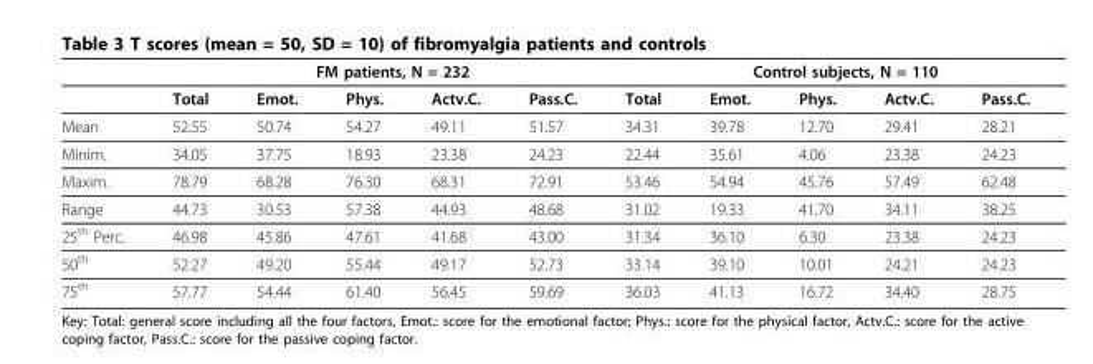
<table><thead><tr><td rowspan="2"></td><td colspan="5">FM patients, N = 232</td><td colspan="5">Control subjects, N = 110</td></tr><tr><td>Total</td><td>Emot.</td><td>Phys.</td><td>Actv.C.</td><td>Pass.C.</td><td>Total</td><td>Emot.</td><td>Phys.</td><td>Actv.C.</td><td>Pass.C.</td></tr></thead><tbody><tr><td>Mean</td><td>52.55</td><td>50.74</td><td>54.27</td><td>49.11</td><td>51.57</td><td>34.31</td><td>39.78</td><td>12.70</td><td>29.41</td><td>28.21</td></tr><tr><td>Minim.</td><td>34.05</td><td>37.75</td><td>18.93</td><td>23.38</td><td>24.23</td><td>22.44</td><td>35.61</td><td>4.06</td><td>23.38</td><td>24.23</td></tr><tr><td>Maxim.</td><td>78.79</td><td>68.28</td><td>76.30</td><td>68.31</td><td>72.91</td><td>53.46</td><td>54.94</td><td>45.76</td><td>57.49</td><td>62.48</td></tr><tr><td>Range</td><td>44.73</td><td>30.53</td><td>57.38</td><td>44.93</td><td>48.68</td><td>31.02</td><td>19.33</td><td>41.70</td><td>34.11</td><td>38.25</td></tr><tr><td>25<sup>th</sup> Perc.</td><td>46.98</td><td>45.86</td><td>47.61</td><td>41.68</td><td>43.00</td><td>31.34</td><td>36.10</td><td>6.30</td><td>23.38</td><td>24.23</td></tr><tr><td>50<sup>th</sup></td><td>52.27</td><td>49.20</td><td>55.44</td><td>49.17</td><td>52.73</td><td>33.14</td><td>39.10</td><td>10.01</td><td>24.21</td><td>24.23</td></tr><tr><td>75<sup>th</sup></td><td>57.77</td><td>54.44</td><td>61.40</td><td>56.45</td><td>59.69</td><td>36.03</td><td>41.13</td><td>16.72</td><td>34.40</td><td>28.75</td></tr></tbody></table>